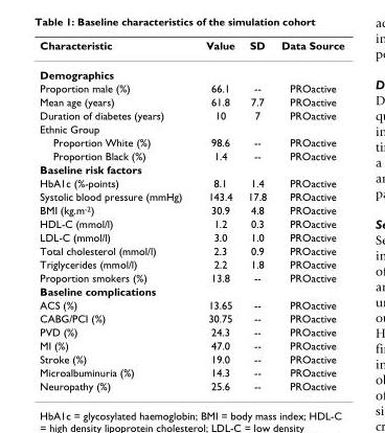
<table><thead><tr><td>Characteristic</td><td>Value</td><td>SD</td><td>Data Source</td></tr></thead><tbody><tr><td colspan="4">Demographics</td></tr><tr><td>Proportion male (%)</td><td>66.1</td><td>--</td><td>PROactive</td></tr><tr><td>Mean age (years)</td><td>61.8</td><td>7.7</td><td>PROactive</td></tr><tr><td>Duration of diabetes (years)</td><td>10</td><td>7</td><td>PROactive</td></tr><tr><td colspan="4">Ethnic Group</td></tr><tr><td>Proportion White (%)</td><td>98.6</td><td>--</td><td>PROactive</td></tr><tr><td>Proportion Black (%)</td><td>1.4</td><td>--</td><td>PROactive</td></tr><tr><td colspan="4">Baseline risk factors</td></tr><tr><td>HbA1c (%-points)</td><td>8.1</td><td>1.4</td><td>PROactive</td></tr><tr><td>Systolic blood pressure (mmHg)</td><td>143.4</td><td>17.8</td><td>PROactive</td></tr><tr><td>BMI (kg.m<sup>-2</sup>)</td><td>30.9</td><td>4.8</td><td>PROactive</td></tr><tr><td>HDL-C (mmol/l)</td><td>1.2</td><td>0.3</td><td>PROactive</td></tr><tr><td>LDL-C (mmol/l)</td><td>3.0</td><td>1.0</td><td>PROactive</td></tr><tr><td>Total cholesterol (mmol/l)</td><td>2.3</td><td>0.9</td><td>PROactive</td></tr><tr><td>Triglycerides (mmol/l)</td><td>2.2</td><td>1.8</td><td>PROactive</td></tr><tr><td>Proportion smokers (%)</td><td>13.8</td><td>--</td><td>PROactive</td></tr><tr><td colspan="4">Baseline complications</td></tr><tr><td>ACS (%)</td><td>13.65</td><td>--</td><td>PROactive</td></tr><tr><td>CABG/PCI (%)</td><td>30.75</td><td>--</td><td>PROactive</td></tr><tr><td>PVD (%)</td><td>24.3</td><td>--</td><td>PROactive</td></tr><tr><td>MI (%)</td><td>47.0</td><td>--</td><td>PROactive</td></tr><tr><td>Stroke (%)</td><td>19.0</td><td>--</td><td>PROactive</td></tr><tr><td>Microalbuminuria (%)</td><td>14.3</td><td>--</td><td>PROactive</td></tr><tr><td>Neuropathy (%)</td><td>25.6</td><td>--</td><td>PROactive</td></tr></tbody></table>